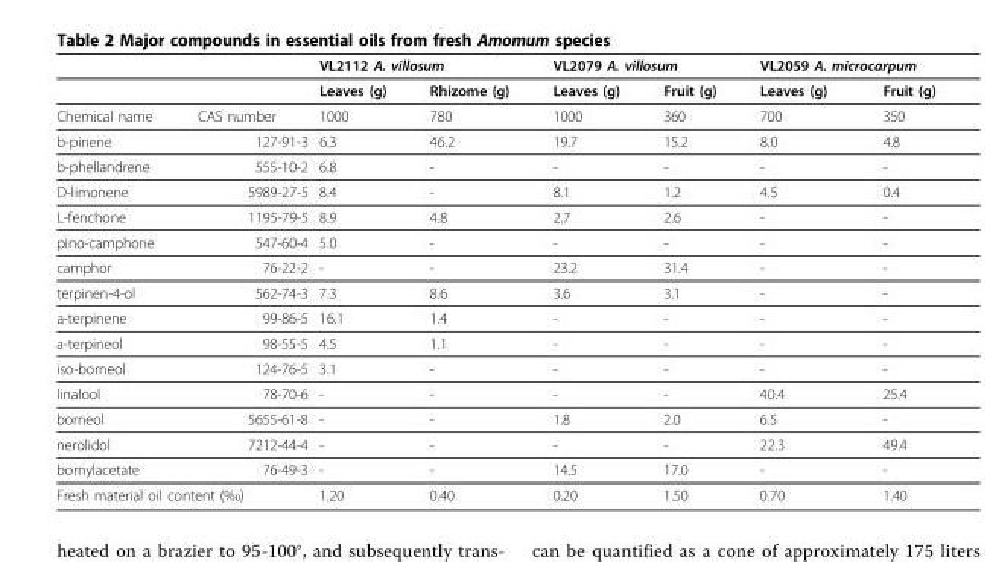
<table><thead><tr><td rowspan="2"></td><td rowspan="2"></td><td colspan="2">VL2112 A. villosum</td><td colspan="2">VL2079 A. villosum</td><td colspan="2">VL2059 A. microcarpum</td></tr><tr><td>Leaves (g)</td><td>Rhizome (g)</td><td>Leaves (g)</td><td>Fruit (g)</td><td>Leaves (g)</td><td>Fruit (g)</td></tr></thead><tbody><tr><td>Chemical name</td><td>CAS number</td><td>1000</td><td>780</td><td>1000</td><td>360</td><td>700</td><td>350</td></tr><tr><td>b-pinene</td><td>127-91-3</td><td>6.3</td><td>46.2</td><td>19.7</td><td>15.2</td><td>8.0</td><td>4.8</td></tr><tr><td>b-phellandrene</td><td>555-10-2</td><td>6.8</td><td>-</td><td>-</td><td>-</td><td>-</td><td>-</td></tr><tr><td>D-limonene</td><td>5989-27-5</td><td>8.4</td><td>-</td><td>8.1</td><td>1.2</td><td>4.5</td><td>0.4</td></tr><tr><td>L-fenchone</td><td>1195-79-5</td><td>8.9</td><td>4.8</td><td>2.7</td><td>2.6</td><td>-</td><td>-</td></tr><tr><td>pino-camphone</td><td>547-60-4</td><td>5.0</td><td>-</td><td>-</td><td>-</td><td>-</td><td>-</td></tr><tr><td>camphor</td><td>76-22-2</td><td>-</td><td>-</td><td>23.2</td><td>31.4</td><td>-</td><td>-</td></tr><tr><td>terpinen-4-ol</td><td>562-74-3</td><td>7.3</td><td>8.6</td><td>3.6</td><td>3.1</td><td>-</td><td>-</td></tr><tr><td>a-terpinene</td><td>99-86-5</td><td>16.1</td><td>1.4</td><td>-</td><td>-</td><td>-</td><td>-</td></tr><tr><td>a-terpineol</td><td>98-55-5</td><td>4.5</td><td>1.1</td><td>-</td><td>-</td><td>-</td><td>-</td></tr><tr><td>iso-borneol</td><td>124-76-5</td><td>3.1</td><td>-</td><td>-</td><td>-</td><td>-</td><td>-</td></tr><tr><td>linalool</td><td>78-70-6</td><td>-</td><td>-</td><td>-</td><td>-</td><td>40.4</td><td>25.4</td></tr><tr><td>borneol</td><td>5655-61-8</td><td>-</td><td>-</td><td>1.8</td><td>2.0</td><td>6.5</td><td>-</td></tr><tr><td>nerolidol</td><td>7212-44-4</td><td>-</td><td>-</td><td>-</td><td>-</td><td>22.3</td><td>49.4</td></tr><tr><td>bornylacetate</td><td>76-49-3</td><td>-</td><td>-</td><td>14.5</td><td>17.0</td><td>-</td><td>-</td></tr><tr><td colspan="2">Fresh material oil content (‰)</td><td>1.20</td><td>0.40</td><td>0.20</td><td>1.50</td><td>0.70</td><td>1.40</td></tr></tbody></table>